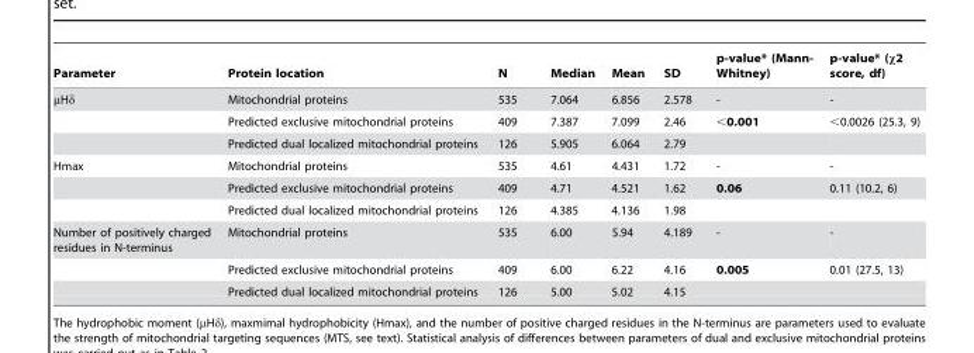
<table><thead><tr><td>Parameter</td><td>Protein location</td><td>N</td><td>Median</td><td>Mean</td><td>SD</td><td>p-value* (Mann- Whitney)</td><td>p-value* (χ2 score, df)</td></tr></thead><tbody><tr><td rowspan="3">μHδ</td><td>Mitochondrial proteins</td><td>535</td><td>7.064</td><td>6.856</td><td>2.578</td><td>-</td><td>-</td></tr><tr><td>Predicted exclusive mitochondrial proteins</td><td>409</td><td>7.387</td><td>7.099</td><td>2.46</td><td>&lt;0.001</td><td>&lt;0.0026 (25.3, 9)</td></tr><tr><td>Predicted dual localized mitochondrial proteins</td><td>126</td><td>5.905</td><td>6.064</td><td>2.79</td><td></td><td></td></tr><tr><td rowspan="3">Hmax</td><td>Mitochondrial proteins</td><td>535</td><td>4.61</td><td>4.431</td><td>1.72</td><td>-</td><td>-</td></tr><tr><td>Predicted exclusive mitochondrial proteins</td><td>409</td><td>4.71</td><td>4.521</td><td>1.62</td><td>0.06</td><td>0.11 (10.2, 6)</td></tr><tr><td>Predicted dual localized mitochondrial proteins</td><td>126</td><td>4.385</td><td>4.136</td><td>1.98</td><td></td><td></td></tr><tr><td rowspan="3">Number of positively charged residues in N-terminus</td><td>Mitochondrial proteins</td><td>535</td><td>6.00</td><td>5.94</td><td>4.189</td><td>-</td><td>-</td></tr><tr><td>Predicted exclusive mitochondrial proteins</td><td>409</td><td>6.00</td><td>6.22</td><td>4.16</td><td>0.005</td><td>0.01 (27.5, 13)</td></tr><tr><td>Predicted dual localized mitochondrial proteins</td><td>126</td><td>5.00</td><td>5.02</td><td>4.15</td><td></td><td></td></tr></tbody></table>